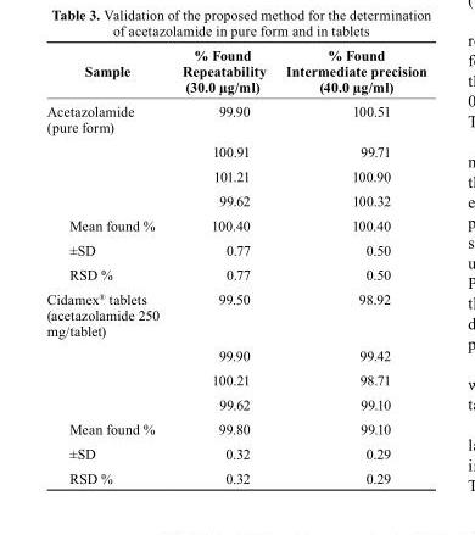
<table><thead><tr><td>sample</td><td>% Found repeatability (30.0 µg/ml)</td><td>% Found Intermediate precision (40.0 µg/ml)</td></tr></thead><tbody><tr><td rowspan="4">Acetazolamide (pure form)</td><td>99.90</td><td>100.51</td></tr><tr><td>100.91</td><td>99.71</td></tr><tr><td>101.21</td><td>100.90</td></tr><tr><td>99.62</td><td>100.32</td></tr><tr><td>Mean found %</td><td>100.40</td><td>100.40</td></tr><tr><td>±SD</td><td>0.77</td><td>0.50</td></tr><tr><td>RSD %</td><td>0.77</td><td>0.50</td></tr><tr><td rowspan="4">Cidamex<sup>®</sup> tablets (acetazolamide 250 mg/tablet)</td><td>99.50</td><td>98.92</td></tr><tr><td>99.90</td><td>99.42</td></tr><tr><td>100.21</td><td>98.71</td></tr><tr><td>99.62</td><td>99.10</td></tr><tr><td>Mean found %</td><td>99.80</td><td>99.10</td></tr><tr><td>±SD</td><td>0.32</td><td>0.29</td></tr><tr><td>RSD %</td><td>0.32</td><td>0.29</td></tr></tbody></table>